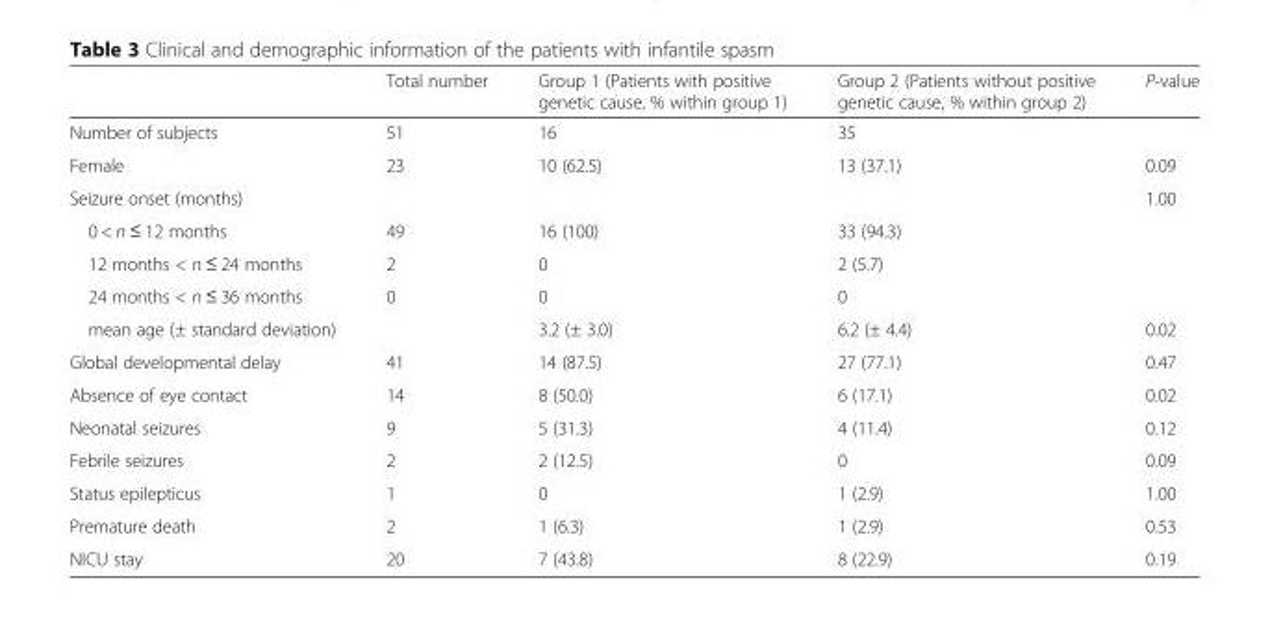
<table><thead><tr><td></td><td>Total number</td><td>Group 1 (Patients with positive genetic cause, % within group 1)</td><td>Group 2 (Patients without positive genetic cause, % within group 2)</td><td>P-value</td></tr></thead><tbody><tr><td>Number of subjects</td><td>51</td><td>16</td><td>35</td><td></td></tr><tr><td>Female</td><td>23</td><td>10 (62.5)</td><td>13 (37.1)</td><td>0.09</td></tr><tr><td>Seizure onset (months)</td><td></td><td></td><td></td><td>1.00</td></tr><tr><td>0 &lt; n ≤ 12 months</td><td>49</td><td>16 (100)</td><td>33 (94.3)</td><td></td></tr><tr><td>12 months &lt; n ≤ 24 months</td><td>2</td><td>0</td><td>2 (5.7)</td><td></td></tr><tr><td>24 months &lt; n ≤ 36 months</td><td>0</td><td>0</td><td>0</td><td></td></tr><tr><td>mean age (± standard deviation)</td><td></td><td>3.2 (± 3.0)</td><td>6.2 (± 4.4)</td><td>0.02</td></tr><tr><td>Global developmental delay</td><td>41</td><td>14 (87.5)</td><td>27 (77.1)</td><td>0.47</td></tr><tr><td>Absence of eye contact</td><td>14</td><td>8 (50.0)</td><td>6 (17.1)</td><td>0.02</td></tr><tr><td>Neonatal seizures</td><td>9</td><td>5 (31.3)</td><td>4 (11.4)</td><td>0.12</td></tr><tr><td>Febrile seizures</td><td>2</td><td>2 (12.5)</td><td>0</td><td>0.09</td></tr><tr><td>Status epilepticus</td><td>1</td><td>0</td><td>1 (2.9)</td><td>1.00</td></tr><tr><td>Premature death</td><td>2</td><td>1 (6.3)</td><td>1 (2.9)</td><td>0.53</td></tr><tr><td>NICU stay</td><td>20</td><td>7 (43.8)</td><td>8 (22.9)</td><td>0.19</td></tr></tbody></table>